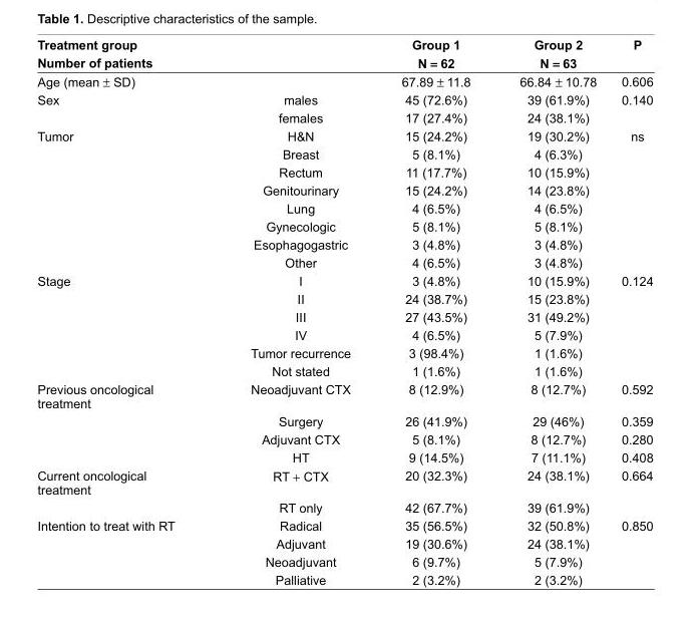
<table><thead><tr><td>Treatment group Number of patients</td><td></td><td>Group 1 N = 62</td><td>Group 2 N = 63</td><td>P</td></tr></thead><tbody><tr><td>Age (mean ± SD)</td><td></td><td>67.89 ± 11.8</td><td>66.84 ± 10.78</td><td>0.606</td></tr><tr><td rowspan="2">Sex</td><td>males</td><td>45 (72.6%)</td><td>39 (61.9%)</td><td>0.140</td></tr><tr><td>females</td><td>17 (27.4%)</td><td>24 (38.1%)</td><td></td></tr><tr><td rowspan="8">Tumor</td><td>H&amp;N</td><td>15 (24.2%)</td><td>19 (30.2%)</td><td>ns</td></tr><tr><td>Breast</td><td>5 (8.1%)</td><td>4 (6.3%)</td><td></td></tr><tr><td>Rectum</td><td>11 (17.7%)</td><td>10 (15.9%)</td><td></td></tr><tr><td>Genitourinary</td><td>15 (24.2%)</td><td>14 (23.8%)</td><td></td></tr><tr><td>Lung</td><td>4 (6.5%)</td><td>4 (6.5%)</td><td></td></tr><tr><td>Gynecologic</td><td>5 (8.1%)</td><td>5 (8.1%)</td><td></td></tr><tr><td>Esophagogastric</td><td>3 (4.8%)</td><td>3 (4.8%)</td><td></td></tr><tr><td>Other</td><td>4 (6.5%)</td><td>3 (4.8%)</td><td></td></tr><tr><td rowspan="6">Stage</td><td>I</td><td>3 (4.8%)</td><td>10 (15.9%)</td><td>0.124</td></tr><tr><td>II</td><td>24 (38.7%)</td><td>15 (23.8%)</td><td></td></tr><tr><td>III</td><td>27 (43.5%)</td><td>31 (49.2%)</td><td></td></tr><tr><td>IV</td><td>4 (6.5%)</td><td>5 (7.9%)</td><td></td></tr><tr><td>Tumor recurrence</td><td>3 (98.4%)</td><td>1 (1.6%)</td><td></td></tr><tr><td>Not stated</td><td>1 (1.6%)</td><td>1 (1.6%)</td><td></td></tr><tr><td rowspan="4">Previous oncological treatment</td><td>Neoadjuvant CTX</td><td>8 (12.9%)</td><td>8 (12.7%)</td><td>0.592</td></tr><tr><td>Surgery</td><td>26 (41.9%)</td><td>29 (46%)</td><td>0.359</td></tr><tr><td>Adjuvant CTX</td><td>5 (8.1%)</td><td>8 (12.7%)</td><td>0.280</td></tr><tr><td>HT</td><td>9 (14.5%)</td><td>7 (11.1%)</td><td>0.408</td></tr><tr><td rowspan="2">Current oncological treatment</td><td>RT + CTX</td><td>20 (32.3%)</td><td>24 (38.1%)</td><td>0.664</td></tr><tr><td>RT only</td><td>42 (67.7%)</td><td>39 (61.9%)</td><td></td></tr><tr><td rowspan="4">Intention to treat with RT</td><td>Radical</td><td>35 (56.5%)</td><td>32 (50.8%)</td><td>0.850</td></tr><tr><td>Adjuvant</td><td>19 (30.6%)</td><td>24 (38.1%)</td><td></td></tr><tr><td>Neoadjuvant</td><td>6 (9.7%)</td><td>5 (7.9%)</td><td></td></tr><tr><td>Palliative</td><td>2 (3.2%)</td><td>2 (3.2%)</td><td></td></tr></tbody></table>